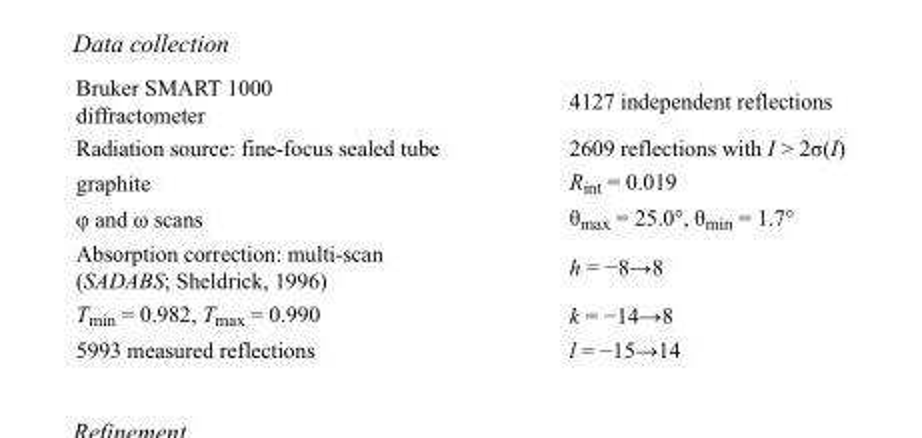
<table><tbody><tr><td>Bruker SMART 1000 diffractometer</td><td>4127 independent reflections</td></tr><tr><td>Radiation source: fine-focus sealed tube</td><td>2609 reflections with I &gt; 2σ(I)</td></tr><tr><td>graphite</td><td>R<sub>int</sub> = 0.019</td></tr><tr><td>φ and ω scans</td><td>θ<sub>max</sub> = 25.0°, θ<sub>min</sub> = 1.7°</td></tr><tr><td>Absorption correction: multi-scan (SADABS; Sheldrick, 1996)</td><td>h = −8→8</td></tr><tr><td>T<sub>min</sub> = 0.982, T<sub>max</sub> = 0.990</td><td>k = −14→8</td></tr><tr><td>5993 measured reflections</td><td>l = −15→14</td></tr></tbody></table>